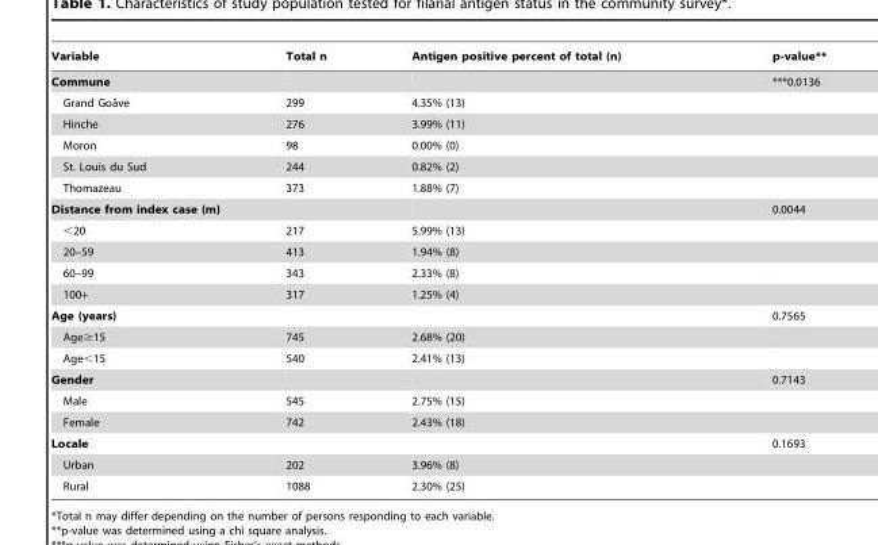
<table><thead><tr><td>Variable</td><td>Total n</td><td>Antigen positive percent of total (n)</td><td>p-value**</td></tr></thead><tbody><tr><td>Commune</td><td></td><td></td><td>***0.0136</td></tr><tr><td>Grand Goaˆve</td><td>299</td><td>4.35% (13)</td><td></td></tr><tr><td>Hinche</td><td>276</td><td>3.99% (11)</td><td></td></tr><tr><td>Moron</td><td>98</td><td>0.00% (0)</td><td></td></tr><tr><td>St. Louis du Sud</td><td>244</td><td>0.82% (2)</td><td></td></tr><tr><td>Thomazeau</td><td>373</td><td>1.88% (7)</td><td></td></tr><tr><td colspan="2">Distance from index case (m)</td><td></td><td>0.0044</td></tr><tr><td>&lt;20</td><td>217</td><td>5.99% (13)</td><td></td></tr><tr><td>20–59</td><td>413</td><td>1.94% (8)</td><td></td></tr><tr><td>60–99</td><td>343</td><td>2.33% (8)</td><td></td></tr><tr><td>100+</td><td>317</td><td>1.25% (4)</td><td></td></tr><tr><td>Age (years)</td><td></td><td></td><td>0.7565</td></tr><tr><td>Age≥15</td><td>745</td><td>2.68% (20)</td><td></td></tr><tr><td>Age&lt;15</td><td>540</td><td>2.41% (13)</td><td></td></tr><tr><td>Gender</td><td></td><td></td><td>0.7143</td></tr><tr><td>Male</td><td>545</td><td>2.75% (15)</td><td></td></tr><tr><td>Female</td><td>742</td><td>2.43% (18)</td><td></td></tr><tr><td>Locale</td><td></td><td></td><td>0.1693</td></tr><tr><td>Urban</td><td>202</td><td>3.96% (8)</td><td></td></tr><tr><td>Rural</td><td>1088</td><td>2.30% (25)</td><td></td></tr></tbody></table>